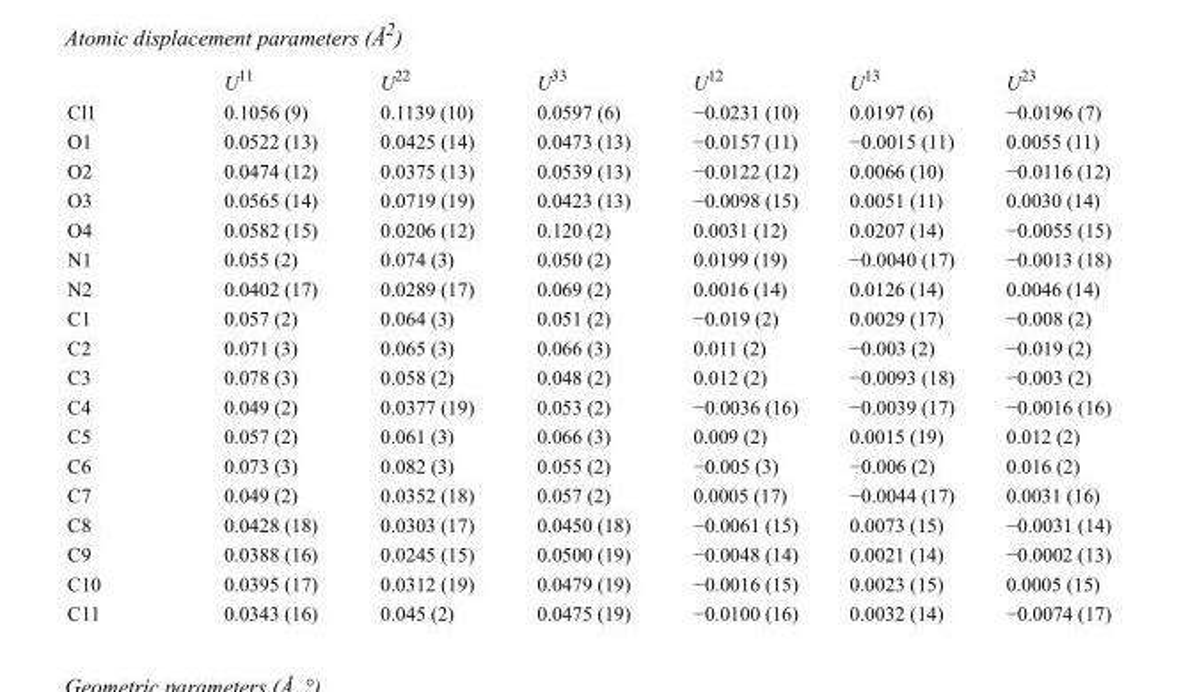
<table><thead><tr><td></td><td>U<sup>11</sup></td><td>U<sup>22</sup></td><td>U<sup>33</sup></td><td>U<sup>12</sup></td><td>U<sup>13</sup></td><td>U<sup>23</sup></td></tr></thead><tbody><tr><td>Cl1</td><td>0.1056 (9)</td><td>0.1139 (10)</td><td>0.0597 (6)</td><td>−0.0231 (10)</td><td>0.0197 (6)</td><td>−0.0196 (7)</td></tr><tr><td>O1</td><td>0.0522 (13)</td><td>0.0425 (14)</td><td>0.0473 (13)</td><td>−0.0157 (11)</td><td>−0.0015 (11)</td><td>0.0055 (11)</td></tr><tr><td>O2</td><td>0.0474 (12)</td><td>0.0375 (13)</td><td>0.0539 (13)</td><td>−0.0122 (12)</td><td>0.0066 (10)</td><td>−0.0116 (12)</td></tr><tr><td>O3</td><td>0.0565 (14)</td><td>0.0719 (19)</td><td>0.0423 (13)</td><td>−0.0098 (15)</td><td>0.0051 (11)</td><td>0.0030 (14)</td></tr><tr><td>O4</td><td>0.0582 (15)</td><td>0.0206 (12)</td><td>0.120 (2)</td><td>0.0031 (12)</td><td>0.0207 (14)</td><td>−0.0055 (15)</td></tr><tr><td>N1</td><td>0.055 (2)</td><td>0.074 (3)</td><td>0.050 (2)</td><td>0.0199 (19)</td><td>−0.0040 (17)</td><td>−0.0013 (18)</td></tr><tr><td>N2</td><td>0.0402 (17)</td><td>0.0289 (17)</td><td>0.069 (2)</td><td>0.0016 (14)</td><td>0.0126 (14)</td><td>0.0046 (14)</td></tr><tr><td>C1</td><td>0.057 (2)</td><td>0.064 (3)</td><td>0.051 (2)</td><td>−0.019 (2)</td><td>0.0029 (17)</td><td>−0.008 (2)</td></tr><tr><td>C2</td><td>0.071 (3)</td><td>0.065 (3)</td><td>0.066 (3)</td><td>0.011 (2)</td><td>−0.003 (2)</td><td>−0.019 (2)</td></tr><tr><td>C3</td><td>0.078 (3)</td><td>0.058 (2)</td><td>0.048 (2)</td><td>0.012 (2)</td><td>−0.0093 (18)</td><td>−0.003 (2)</td></tr><tr><td>C4</td><td>0.049 (2)</td><td>0.0377 (19)</td><td>0.053 (2)</td><td>−0.0036 (16)</td><td>−0.0039 (17)</td><td>−0.0016 (16)</td></tr><tr><td>C5</td><td>0.057 (2)</td><td>0.061 (3)</td><td>0.066 (3)</td><td>0.009 (2)</td><td>0.0015 (19)</td><td>0.012 (2)</td></tr><tr><td>C6</td><td>0.073 (3)</td><td>0.082 (3)</td><td>0.055 (2)</td><td>−0.005 (3)</td><td>−0.006 (2)</td><td>0.016 (2)</td></tr><tr><td>C7</td><td>0.049 (2)</td><td>0.0352 (18)</td><td>0.057 (2)</td><td>0.0005 (17)</td><td>−0.0044 (17)</td><td>0.0031 (16)</td></tr><tr><td>C8</td><td>0.0428 (18)</td><td>0.0303 (17)</td><td>0.0450 (18)</td><td>−0.0061 (15)</td><td>0.0073 (15)</td><td>−0.0031 (14)</td></tr><tr><td>C9</td><td>0.0388 (16)</td><td>0.0245 (15)</td><td>0.0500 (19)</td><td>−0.0048 (14)</td><td>0.0021 (14)</td><td>−0.0002 (13)</td></tr><tr><td>C10</td><td>0.0395 (17)</td><td>0.0312 (19)</td><td>0.0479 (19)</td><td>−0.0016 (15)</td><td>0.0023 (15)</td><td>0.0005 (15)</td></tr><tr><td>C11</td><td>0.0343 (16)</td><td>0.045 (2)</td><td>0.0475 (19)</td><td>−0.0100 (16)</td><td>0.0032 (14)</td><td>−0.0074 (17)</td></tr></tbody></table>